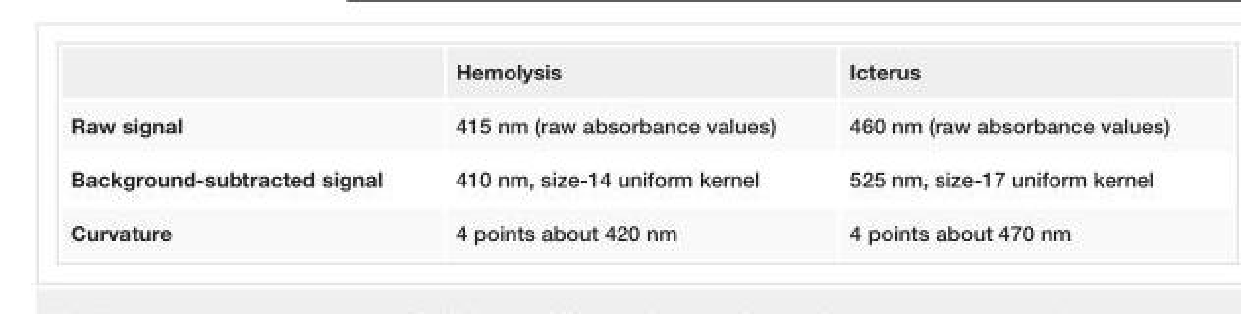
<table><thead><tr><td></td><td>Hemolysis</td><td>Icterus</td></tr></thead><tbody><tr><td>Raw signal</td><td>415 nm (raw absorbance values)</td><td>460 nm (raw absorbance values)</td></tr><tr><td>Background-subtracted signal</td><td>410 nm, size-14 uniform kernel</td><td>525 nm, size-17 uniform kernel</td></tr><tr><td>Curvature</td><td>4 points about 420 nm</td><td>4 points about 470 nm</td></tr></tbody></table>